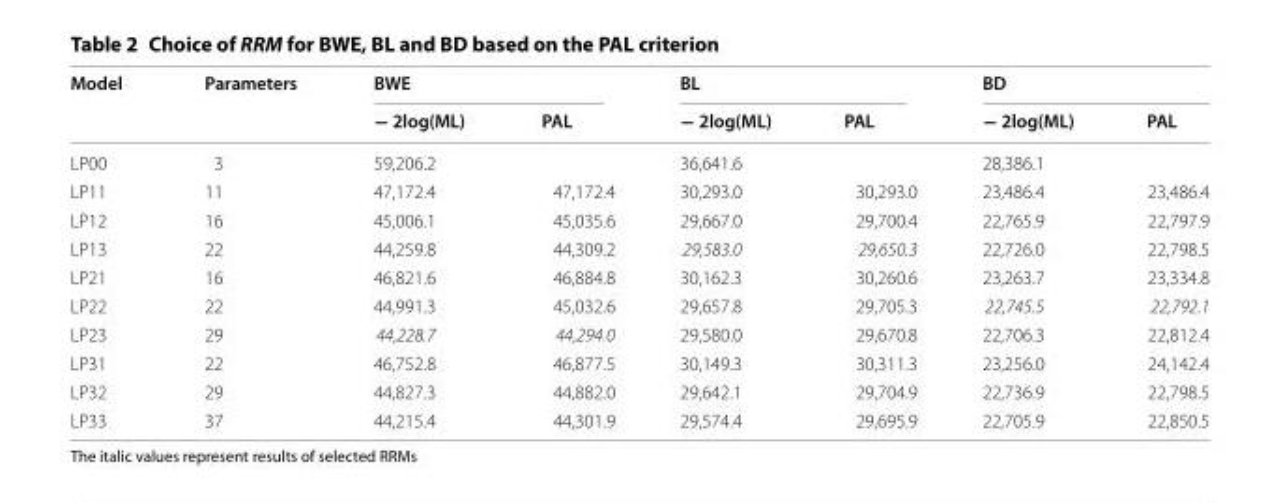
<table><thead><tr><td rowspan="2">Model</td><td rowspan="2">Parameters</td><td colspan="2">BWE</td><td colspan="2">BL</td><td colspan="2">BD</td></tr><tr><td>− 2log(ML)</td><td>PAL</td><td>− 2log(ML)</td><td>PAL</td><td>− 2log(ML)</td><td>PAL</td></tr></thead><tbody><tr><td>LP00</td><td>3</td><td>59,206.2</td><td></td><td>36,641.6</td><td></td><td>28,386.1</td><td></td></tr><tr><td>LP11</td><td>11</td><td>47,172.4</td><td>47,172.4</td><td>30,293.0</td><td>30,293.0</td><td>23,486.4</td><td>23,486.4</td></tr><tr><td>LP12</td><td>16</td><td>45,006.1</td><td>45,035.6</td><td>29,667.0</td><td>29,700.4</td><td>22,765.9</td><td>22,797.9</td></tr><tr><td>LP13</td><td>22</td><td>44,259.8</td><td>44,309.2</td><td>29,583.0</td><td>29,650.3</td><td>22,726.0</td><td>22,798.5</td></tr><tr><td>LP21</td><td>16</td><td>46,821.6</td><td>46,884.8</td><td>30,162.3</td><td>30,260.6</td><td>23,263.7</td><td>23,334.8</td></tr><tr><td>LP22</td><td>22</td><td>44,991.3</td><td>45,032.6</td><td>29,657.8</td><td>29,705.3</td><td>22,745.5</td><td>22,792.1</td></tr><tr><td>LP23</td><td>29</td><td>44,228.7</td><td>44,294.0</td><td>29,580.0</td><td>29,670.8</td><td>22,706.3</td><td>22,812.4</td></tr><tr><td>LP31</td><td>22</td><td>46,752.8</td><td>46,877.5</td><td>30,149.3</td><td>30,311.3</td><td>23,256.0</td><td>24,142.4</td></tr><tr><td>LP32</td><td>29</td><td>44,827.3</td><td>44,882.0</td><td>29,642.1</td><td>29,704.9</td><td>22,736.9</td><td>22,798.5</td></tr><tr><td>LP33</td><td>37</td><td>44,215.4</td><td>44,301.9</td><td>29,574.4</td><td>29,695.9</td><td>22,705.9</td><td>22,850.5</td></tr></tbody></table>